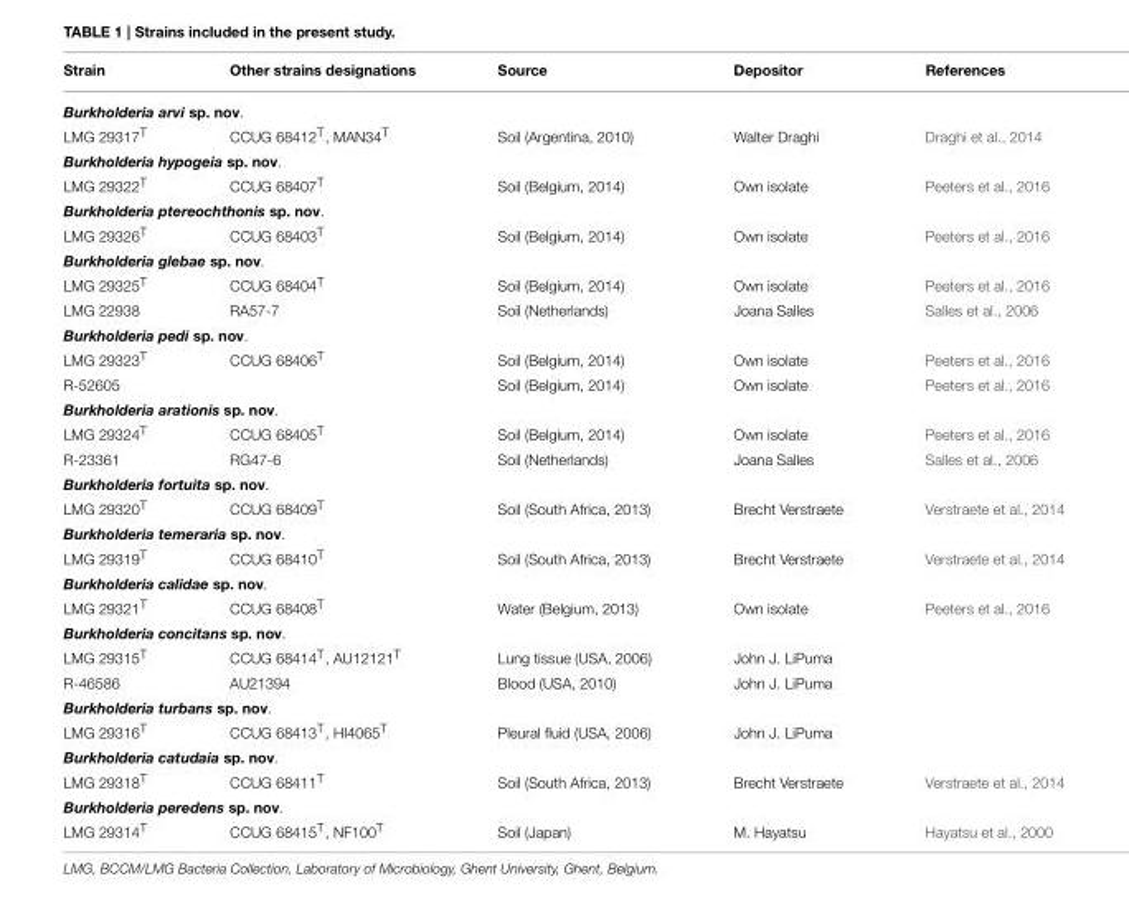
<table><thead><tr><td>Strain</td><td>Other strains designations</td><td>Source</td><td>Depositor</td><td>References</td></tr></thead><tbody><tr><td colspan="5">Burkholderia arvi sp. nov.</td></tr><tr><td>LMG 29317<sup>T</sup></td><td>CCUG 68412<sup>T</sup>, MAN34<sup>T</sup></td><td>Soil (Argentina, 2010)</td><td>Walter Draghi</td><td>Draghi et al., 2014</td></tr><tr><td colspan="5">Burkholderia hypogeia sp. nov.</td></tr><tr><td>LMG 29322<sup>T</sup></td><td>CCUG 68407<sup>T</sup></td><td>Soil (Belgium, 2014)</td><td>Own isolate</td><td>Peeters et al., 2016</td></tr><tr><td colspan="5">Burkholderia ptereochthonis sp. nov.</td></tr><tr><td>LMG 29326<sup>T</sup></td><td>CCUG 68403<sup>T</sup></td><td>Soil (Belgium, 2014)</td><td>Own isolate</td><td>Peeters et al., 2016</td></tr><tr><td colspan="5">Burkholderia glebae sp. nov.</td></tr><tr><td>LMG 29325<sup>T</sup></td><td>CCUG 68404<sup>T</sup></td><td>Soil (Belgium, 2014)</td><td>Own isolate</td><td>Peeters et al., 2016</td></tr><tr><td>LMG 22938</td><td>RA57-7</td><td>Soil (Netherlands)</td><td>Joana Salles</td><td>Salles et al., 2006</td></tr><tr><td colspan="5">Burkholderia pedi sp. nov.</td></tr><tr><td>LMG 29323<sup>T</sup></td><td>CCUG 68406<sup>T</sup></td><td>Soil (Belgium, 2014)</td><td>Own isolate</td><td>Peeters et al., 2016</td></tr><tr><td>R-52605</td><td></td><td>Soil (Belgium, 2014)</td><td>Own isolate</td><td>Peeters et al., 2016</td></tr><tr><td colspan="5">Burkholderia arationis sp. nov.</td></tr><tr><td>LMG 29324<sup>T</sup></td><td>CCUG 68405<sup>T</sup></td><td>Soil (Belgium, 2014)</td><td>Own isolate</td><td>Peeters et al., 2016</td></tr><tr><td>R-23361</td><td>RG47-6</td><td>Soil (Netherlands)</td><td>Joana Salles</td><td>Salles et al., 2006</td></tr><tr><td colspan="5">Burkholderia fortuita sp. nov.</td></tr><tr><td>LMG 29320<sup>T</sup></td><td>CCUG 68409<sup>T</sup></td><td>Soil (South Africa, 2013)</td><td>Brecht Verstraete</td><td>Verstraete et al., 2014</td></tr><tr><td colspan="5">Burkholderia temeraria sp. nov.</td></tr><tr><td>LMG 29319<sup>T</sup></td><td>CCUG 68410<sup>T</sup></td><td>Soil (South Africa, 2013)</td><td>Brecht Verstraete</td><td>Verstraete et al., 2014</td></tr><tr><td colspan="5">Burkholderia calidae sp. nov.</td></tr><tr><td>LMG 29321<sup>T</sup></td><td>CCUG 68408<sup>T</sup></td><td>Water (Belgium, 2013)</td><td>Own isolate</td><td>Peeters et al., 2016</td></tr><tr><td colspan="5">Burkholderia concitans sp. nov.</td></tr><tr><td>LMG 29315<sup>T</sup></td><td>CCUG 68414<sup>T</sup>, AU12121<sup>T</sup></td><td>Lung tissue (USA, 2006)</td><td>John J. LiPuma</td><td></td></tr><tr><td>R-46586</td><td>AU21394</td><td>Blood (USA, 2010)</td><td>John J. LiPuma</td><td></td></tr><tr><td colspan="5">Burkholderia turbans sp. nov.</td></tr><tr><td>LMG 29316<sup>T</sup></td><td>CCUG 68413<sup>T</sup>, HI4065<sup>T</sup></td><td>Pleural fluid (USA, 2006)</td><td>John J. LiPuma</td><td></td></tr><tr><td colspan="5">Burkholderia catudaia sp. nov.</td></tr><tr><td>LMG 29318<sup>T</sup></td><td>CCUG 68411<sup>T</sup></td><td>Soil (South Africa, 2013)</td><td>Brecht Verstraete</td><td>Verstraete et al., 2014</td></tr><tr><td colspan="5">Burkholderia peredens sp. nov.</td></tr><tr><td>LMG 29314<sup>T</sup></td><td>CCUG 68415<sup>T</sup>, NF100<sup>T</sup></td><td>Soil (Japan)</td><td>M. Hayatsu</td><td>Hayatsu et al., 2000</td></tr></tbody></table>